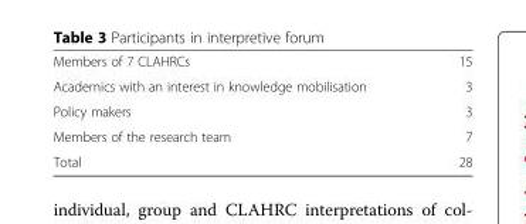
<table><tbody><tr><td>Members of 7 CLAHRCs</td><td>15</td></tr><tr><td>Academics with an interest in knowledge mobilisation</td><td>3</td></tr><tr><td>Policy makers</td><td>3</td></tr><tr><td>Members of the research team</td><td>7</td></tr><tr><td>Total</td><td>28</td></tr></tbody></table>